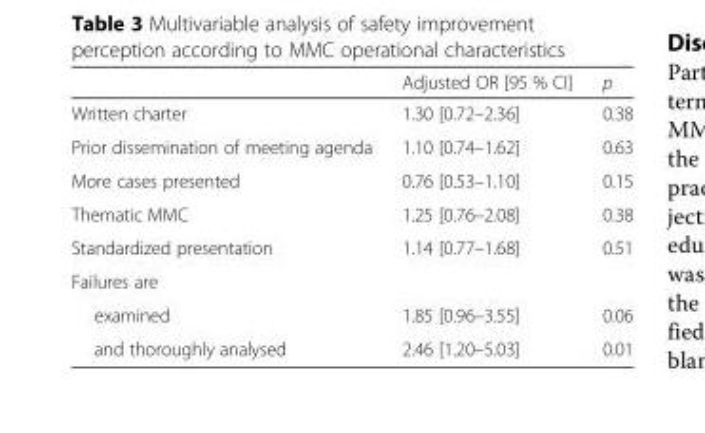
<table><thead><tr><td></td><td>Adjusted OR [95 % CI]</td><td>p</td></tr></thead><tbody><tr><td>Written charter</td><td>1.30 [0.72–2.36]</td><td>0.38</td></tr><tr><td>Prior dissemination of meeting agenda</td><td>1.10 [0.74–1.62]</td><td>0.63</td></tr><tr><td>More cases presented</td><td>0.76 [0.53–1.10]</td><td>0.15</td></tr><tr><td>Thematic MMC</td><td>1.25 [0.76–2.08]</td><td>0.38</td></tr><tr><td>Standardized presentation</td><td>1.14 [0.77–1.68]</td><td>0.51</td></tr><tr><td colspan="3">Failures are</td></tr><tr><td>examined</td><td>1.85 [0.96–3.55]</td><td>0.06</td></tr><tr><td>and thoroughly analysed</td><td>2.46 [1.20–5.03]</td><td>0.01</td></tr></tbody></table>